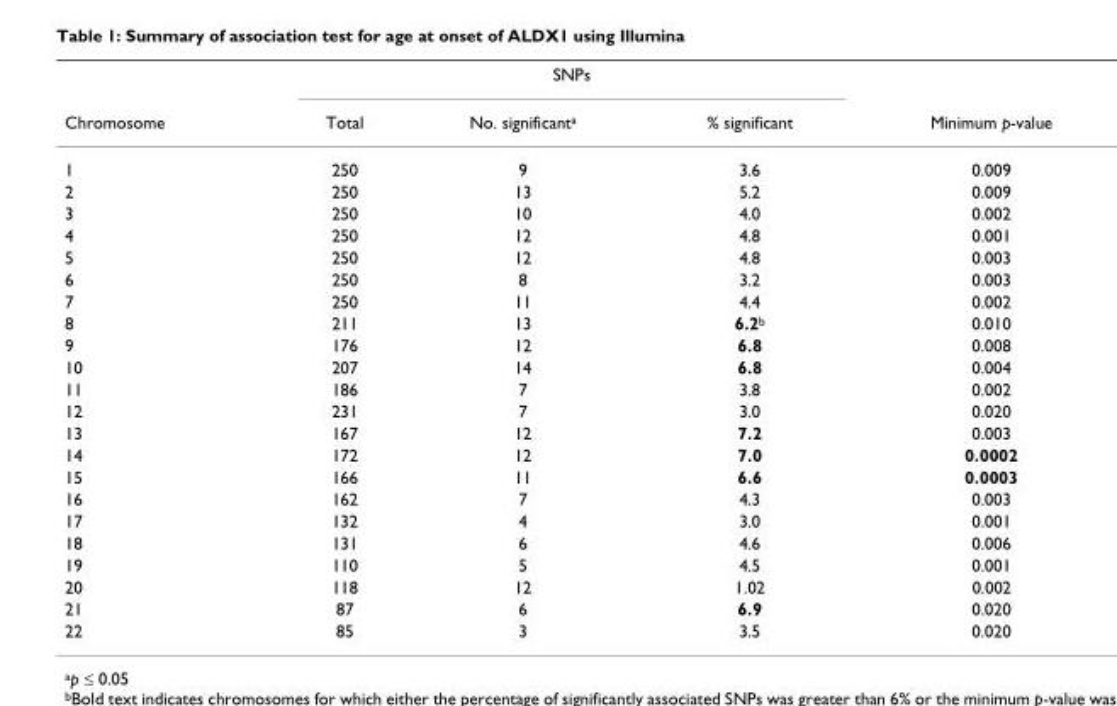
<table><thead><tr><td rowspan="2">Chromosome</td><td colspan="3">SNPs</td><td rowspan="2">Minimum p-value</td></tr><tr><td>Total</td><td>No. significanta</td><td>% significant</td></tr></thead><tbody><tr><td>1</td><td>250</td><td>9</td><td>3.6</td><td>0.009</td></tr><tr><td>2</td><td>250</td><td>13</td><td>5.2</td><td>0.009</td></tr><tr><td>3</td><td>250</td><td>10</td><td>4.0</td><td>0.002</td></tr><tr><td>4</td><td>250</td><td>12</td><td>4.8</td><td>0.001</td></tr><tr><td>5</td><td>250</td><td>12</td><td>4.8</td><td>0.003</td></tr><tr><td>6</td><td>250</td><td>8</td><td>3.2</td><td>0.003</td></tr><tr><td>7</td><td>250</td><td>11</td><td>4.4</td><td>0.002</td></tr><tr><td>8</td><td>211</td><td>13</td><td>6.2b</td><td>0.010</td></tr><tr><td>9</td><td>176</td><td>12</td><td>6.8</td><td>0.008</td></tr><tr><td>10</td><td>207</td><td>14</td><td>6.8</td><td>0.004</td></tr><tr><td>11</td><td>186</td><td>7</td><td>3.8</td><td>0.002</td></tr><tr><td>12</td><td>231</td><td>7</td><td>3.0</td><td>0.020</td></tr><tr><td>13</td><td>167</td><td>12</td><td>7.2</td><td>0.003</td></tr><tr><td>14</td><td>172</td><td>12</td><td>7.0</td><td>0.0002</td></tr><tr><td>15</td><td>166</td><td>11</td><td>6.6</td><td>0.0003</td></tr><tr><td>16</td><td>162</td><td>7</td><td>4.3</td><td>0.003</td></tr><tr><td>17</td><td>132</td><td>4</td><td>3.0</td><td>0.001</td></tr><tr><td>18</td><td>131</td><td>6</td><td>4.6</td><td>0.006</td></tr><tr><td>19</td><td>110</td><td>5</td><td>4.5</td><td>0.001</td></tr><tr><td>20</td><td>118</td><td>12</td><td>1.02</td><td>0.002</td></tr><tr><td>21</td><td>87</td><td>6</td><td>6.9</td><td>0.020</td></tr><tr><td>22</td><td>85</td><td>3</td><td>3.5</td><td>0.020</td></tr></tbody></table>